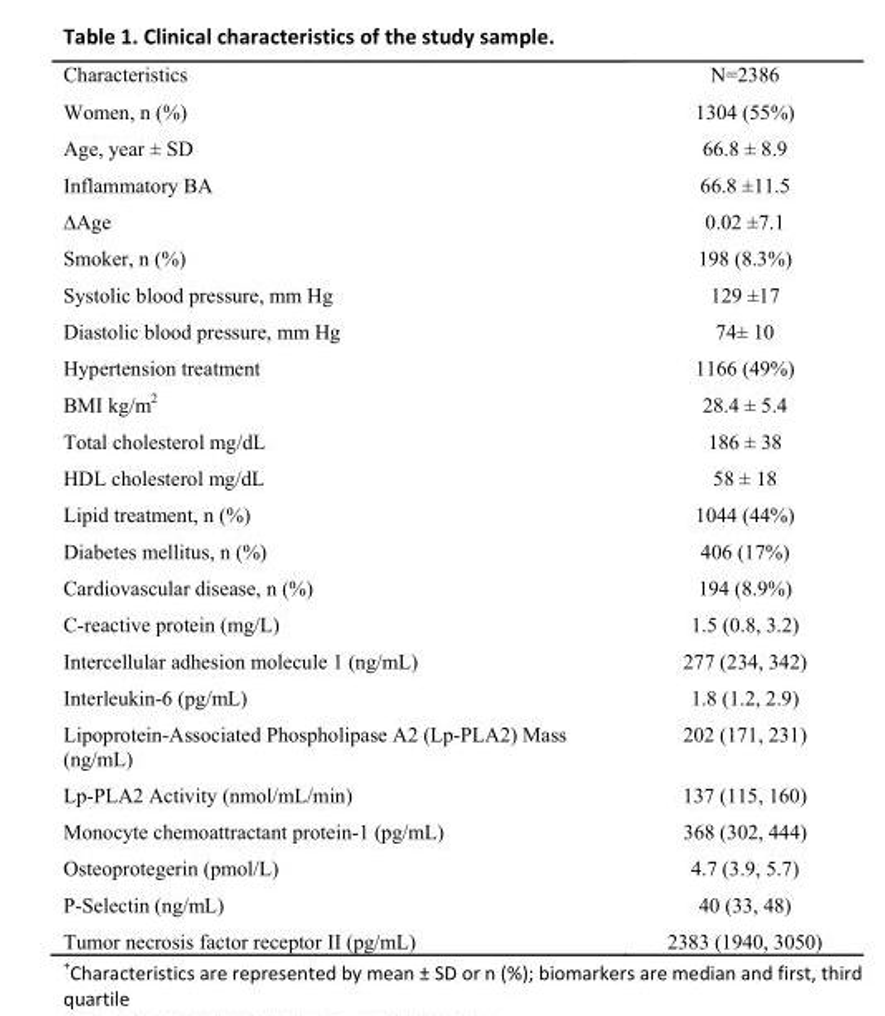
<table><thead><tr><td>Characteristics</td><td>N=2386</td></tr></thead><tbody><tr><td>Women, n (%)</td><td>1304 (55%)</td></tr><tr><td>Age, year ± SD</td><td>66.8 ± 8.9</td></tr><tr><td>Inflammatory BA</td><td>66.8 ±11.5</td></tr><tr><td>∆Age</td><td>0.02 ±7.1</td></tr><tr><td>Smoker, n (%)</td><td>198 (8.3%)</td></tr><tr><td>Systolic blood pressure, mm Hg</td><td>129 ±17</td></tr><tr><td>Diastolic blood pressure, mm Hg</td><td>74± 10</td></tr><tr><td>Hypertension treatment</td><td>1166 (49%)</td></tr><tr><td>BMI kg/m<sup>2</sup></td><td>28.4 ± 5.4</td></tr><tr><td>Total cholesterol mg/dL</td><td>186 ± 38</td></tr><tr><td>HDL cholesterol mg/dL</td><td>58 ± 18</td></tr><tr><td>Lipid treatment, n (%)</td><td>1044 (44%)</td></tr><tr><td>Diabetes mellitus, n (%)</td><td>406 (17%)</td></tr><tr><td>Cardiovascular disease, n (%)</td><td>194 (8.9%)</td></tr><tr><td>C-reactive protein (mg/L)</td><td>1.5 (0.8, 3.2)</td></tr><tr><td>Intercellular adhesion molecule 1 (ng/mL)</td><td>277 (234, 342)</td></tr><tr><td>Interleukin-6 (pg/mL)</td><td>1.8 (1.2, 2.9)</td></tr><tr><td>Lipoprotein-Associated Phospholipase A2 (Lp-PLA2) Mass (ng/mL)</td><td>202 (171, 231)</td></tr><tr><td>Lp-PLA2 Activity (nmol/mL/min)</td><td>137 (115, 160)</td></tr><tr><td>Monocyte chemoattractant protein-1 (pg/mL)</td><td>368 (302, 444)</td></tr><tr><td>Osteoprotegerin (pmol/L)</td><td>4.7 (3.9, 5.7)</td></tr><tr><td>P-Selectin (ng/mL)</td><td>40 (33, 48)</td></tr><tr><td>Tumor necrosis factor receptor II (pg/mL)</td><td>2383 (1940, 3050)</td></tr></tbody></table>